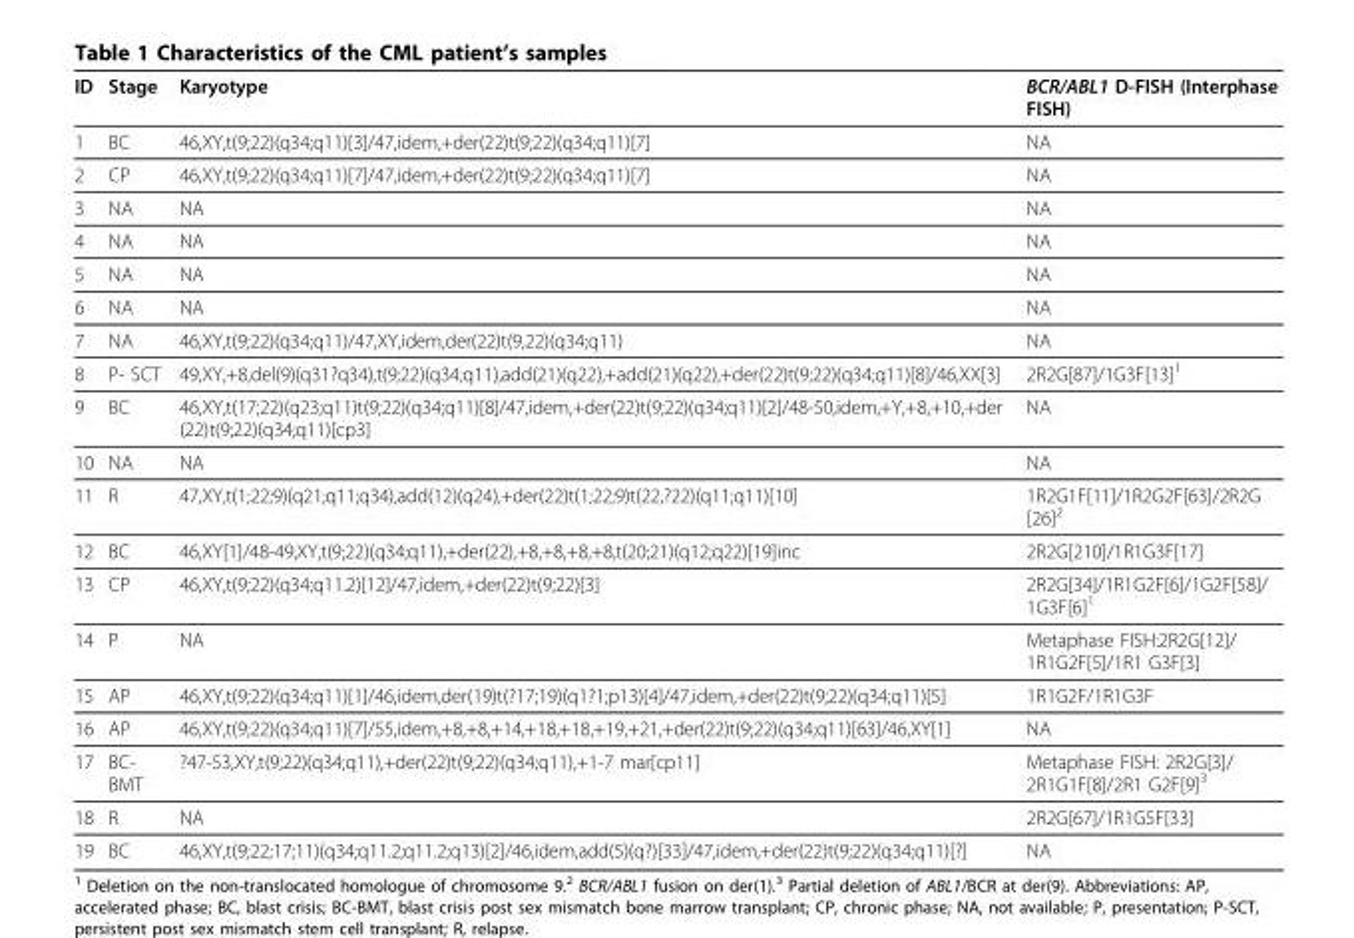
<table><thead><tr><td>ID</td><td>Stage</td><td>Karyotype</td><td>BCR/ABL1 D-FISH (Interphase FISH)</td></tr></thead><tbody><tr><td>1</td><td>BC</td><td>46,XY,t(9;22)(q34;q11)[3]/47,idem,+der(22)t(9;22)(q34;q11)[7]</td><td>NA</td></tr><tr><td>2</td><td>CP</td><td>46,XY,t(9;22)(q34;q11)[7]/47,idem,+der(22)t(9;22)(q34;q11)[7]</td><td>NA</td></tr><tr><td>3</td><td>NA</td><td>NA</td><td>NA</td></tr><tr><td>4</td><td>NA</td><td>NA</td><td>NA</td></tr><tr><td>5</td><td>NA</td><td>NA</td><td>NA</td></tr><tr><td>6</td><td>NA</td><td>NA</td><td>NA</td></tr><tr><td>7</td><td>NA</td><td>46,XY,t(9;22)(q34;q11)/47,XY,idem,der(22)t(9,22)(q34;q11)</td><td>NA</td></tr><tr><td>8</td><td>P- SCT</td><td>49,XY,+8,del(9)(q31?q34),t(9;22)(q34;q11),add(21)(q22),+add(21)(q22),+der(22)t(9;22)(q34;q11)[8]/46,XX[3]</td><td>2R2G[87]/1G3F[13]<sup>1</sup></td></tr><tr><td>9</td><td>BC</td><td>46,XY,t(17;22)(q23;q11)t(9;22)(q34;q11)[8]/47,idem,+der(22)t(9;22)(q34;q11)[2]/48-50,idem,+Y,+8,+10,+der (22)t(9;22)(q34;q11)[cp3]</td><td>NA</td></tr><tr><td>10</td><td>NA</td><td>NA</td><td>NA</td></tr><tr><td>11</td><td>R</td><td>47,XY,t(1;22;9)(q21;q11;q34),add(12)(q24),+der(22)t(1;22;9)t(22,?22)(q11;q11)[10]</td><td>1R2G1F[11]/1R2G2F[63]/2R2G [26]<sup>2</sup></td></tr><tr><td>12</td><td>BC</td><td>46,XY[1]/48-49,XY,t(9;22)(q34;q11),+der(22),+8,+8,+8,+8,t(20;21)(q12;q22)[19]inc</td><td>2R2G[210]/1R1G3F[17]</td></tr><tr><td>13</td><td>CP</td><td>46,XY,t(9;22)(q34;q11.2)[12]/47,idem,+der(22)t(9;22)[3]</td><td>2R2G[34]/1R1G2F[6]/1G2F[58]/ 1G3F[6]<sup>1</sup></td></tr><tr><td>14</td><td>P</td><td>NA</td><td>Metaphase FISH:2R2G[12]/ 1R1G2F[5]/1R1 G3F[3]</td></tr><tr><td>15</td><td>AP</td><td>46,XY,t(9;22)(q34;q11)[1]/46,idem,der(19)t(?17;19)(q1?1;p13)[4]/47,idem,+der(22)t(9;22)(q34;q11)[5]</td><td>1R1G2F/1R1G3F</td></tr><tr><td>16</td><td>AP</td><td>46,XY,t(9;22)(q34;q11)[7]/55,idem,+8,+8,+14,+18,+18,+19,+21,+der(22)t(9;22)(q34;q11)[63]/46,XY[1]</td><td>NA</td></tr><tr><td>17</td><td>BC- BMT</td><td>?47-53,XY,t(9;22)(q34;q11),+der(22)t(9;22)(q34;q11),+1-7 mar[cp11]</td><td>Metaphase FISH: 2R2G[3]/ 2R1G1F[8]/2R1 G2F[9]<sup>3</sup></td></tr><tr><td>18</td><td>R</td><td>NA</td><td>2R2G[67]/1R1G5F[33]</td></tr><tr><td>19</td><td>BC</td><td>46,XY,t(9;22;17;11)(q34;q11.2;q11.2;q13)[2]/46,idem,add(5)(q?)[33]/47,idem,+der(22)t(9;22)(q34;q11)[?]</td><td>NA</td></tr></tbody></table>